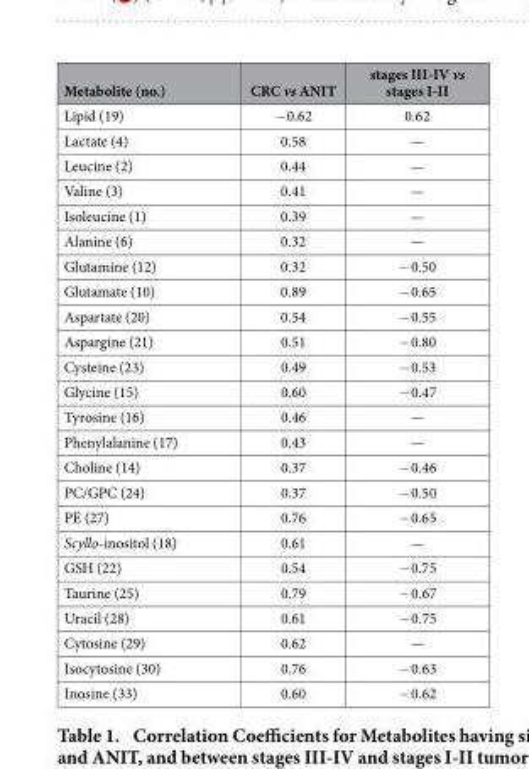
<table><thead><tr><td>Metabolite (no.)</td><td>CRC vs ANIT</td><td>stages III-IV vs stages I-II</td></tr></thead><tbody><tr><td>Lipid (19)</td><td>− 0.62</td><td>0.62</td></tr><tr><td>Lactate (4)</td><td>0.58</td><td>—</td></tr><tr><td>Leucine (2)</td><td>0.44</td><td>—</td></tr><tr><td>Valine (3)</td><td>0.41</td><td>—</td></tr><tr><td>Isoleucine (1)</td><td>0.39</td><td>—</td></tr><tr><td>Alanine (6)</td><td>0.32</td><td>—</td></tr><tr><td>Glutamine (12)</td><td>0.32</td><td>− 0.50</td></tr><tr><td>Glutamate (10)</td><td>0.89</td><td>− 0.65</td></tr><tr><td>Aspartate (20)</td><td>0.54</td><td>− 0.55</td></tr><tr><td>Aspargine (21)</td><td>0.51</td><td>− 0.80</td></tr><tr><td>Cysteine (23)</td><td>0.49</td><td>− 0.53</td></tr><tr><td>Glycine (15)</td><td>0.60</td><td>− 0.47</td></tr><tr><td>Tyrosine (16)</td><td>0.46</td><td>—</td></tr><tr><td>Phenylalanine (17)</td><td>0.43</td><td>—</td></tr><tr><td>Choline (14)</td><td>0.37</td><td>− 0.46</td></tr><tr><td>PC/GPC (24)</td><td>0.37</td><td>− 0.50</td></tr><tr><td>PE (27)</td><td>0.76</td><td>− 0.65</td></tr><tr><td>Scyllo-inositol (18)</td><td>0.61</td><td>—</td></tr><tr><td>GSH (22)</td><td>0.54</td><td>− 0.75</td></tr><tr><td>Taurine (25)</td><td>0.79</td><td>− 0.67</td></tr><tr><td>Uracil (28)</td><td>0.61</td><td>− 0.75</td></tr><tr><td>Cytosine (29)</td><td>0.62</td><td>—</td></tr><tr><td>Isocytosine (30)</td><td>0.76</td><td>− 0.63</td></tr><tr><td>Inosine (33)</td><td>0.60</td><td>− 0.62</td></tr></tbody></table>